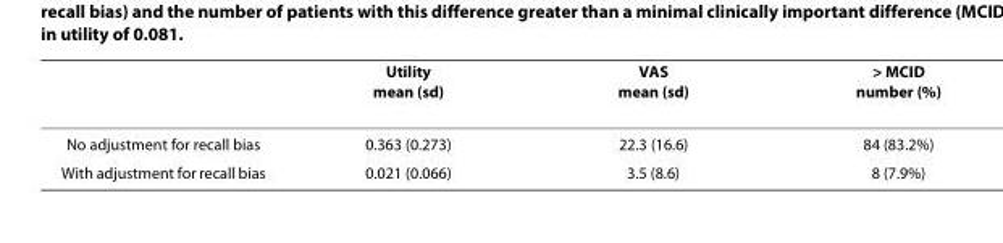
<table><thead><tr><td></td><td>Utility mean (sd)</td><td>VAS mean (sd)</td><td>&gt; MCID number (%)</td></tr></thead><tbody><tr><td>No adjustment for recall bias</td><td>0.363 (0.273)</td><td>22.3 (16.6)</td><td>84 (83.2%)</td></tr><tr><td>With adjustment for recall bias</td><td>0.021 (0.066)</td><td>3.5 (8.6)</td><td>8 (7.9%)</td></tr></tbody></table>